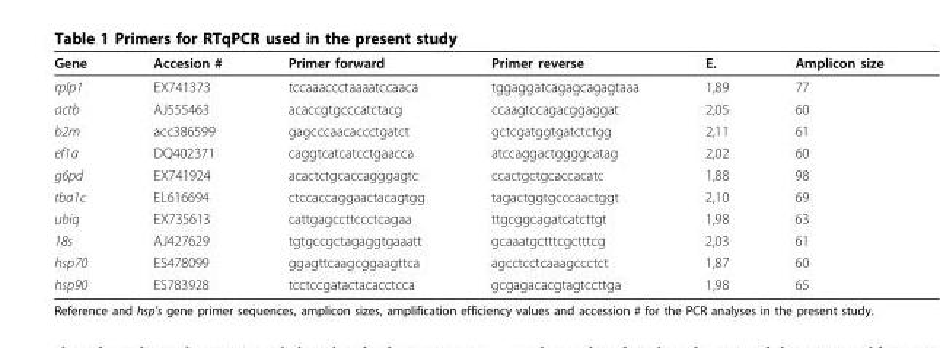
<table><thead><tr><td>Gene</td><td>Accesion #</td><td>Primer forward</td><td>Primer reverse</td><td>E.</td><td>Amplicon size</td></tr></thead><tbody><tr><td>rplp1</td><td>EX741373</td><td>tccaaaccctaaaatccaaca</td><td>tggaggatcagagcagagtaaa</td><td>1,89</td><td>77</td></tr><tr><td>actb</td><td>AJ555463</td><td>acaccgtgcccatctacg</td><td>ccaagtccagacggaggat</td><td>2,05</td><td>60</td></tr><tr><td>b2m</td><td>acc386599</td><td>gagcccaacaccctgatct</td><td>gctcgatggtgatctctgg</td><td>2,11</td><td>61</td></tr><tr><td>ef1a</td><td>DQ402371</td><td>caggtcatcatcctgaacca</td><td>atccaggactggggcatag</td><td>2,02</td><td>60</td></tr><tr><td>g6pd</td><td>EX741924</td><td>acactctgcaccagggagtc</td><td>ccactgctgcaccacatc</td><td>1,88</td><td>98</td></tr><tr><td>tba1c</td><td>EL616694</td><td>ctccaccaggaactacagtgg</td><td>tagactggtgcccaactggt</td><td>2,10</td><td>69</td></tr><tr><td>ubiq</td><td>EX735613</td><td>cattgagccttccctcagaa</td><td>ttgcggcagatcatcttgt</td><td>1,98</td><td>63</td></tr><tr><td>18s</td><td>AJ427629</td><td>tgtgccgctagaggtgaaatt</td><td>gcaaatgctttcgctttcg</td><td>2,03</td><td>61</td></tr><tr><td>hsp70</td><td>ES478099</td><td>ggagttcaagcggaagttca</td><td>agcctcctcaaagccctct</td><td>1,87</td><td>60</td></tr><tr><td>hsp90</td><td>ES783928</td><td>tcctccgatactacacctcca</td><td>gcgagacacgtagtccttga</td><td>1,98</td><td>65</td></tr></tbody></table>